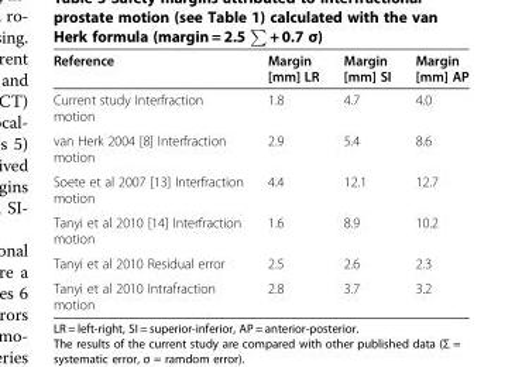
<table><thead><tr><td>Reference</td><td>Margin [mm] LR</td><td>Margin [mm] SI</td><td>Margin [mm] AP</td></tr></thead><tbody><tr><td>Current study Interfraction motion</td><td>1.8</td><td>4.7</td><td>4.0</td></tr><tr><td>van Herk 2004 [8] Interfraction motion</td><td>2.9</td><td>5.4</td><td>8.6</td></tr><tr><td>Soete et al 2007 [13] Interfraction motion</td><td>4.4</td><td>12.1</td><td>12.7</td></tr><tr><td>Tanyi et al 2010 [14] Interfraction motion</td><td>1.6</td><td>8.9</td><td>10.2</td></tr><tr><td>Tanyi et al 2010 Residual error</td><td>2.5</td><td>2.6</td><td>2.3</td></tr><tr><td>Tanyi et al 2010 Intrafraction motion</td><td>2.8</td><td>3.7</td><td>3.2</td></tr></tbody></table>